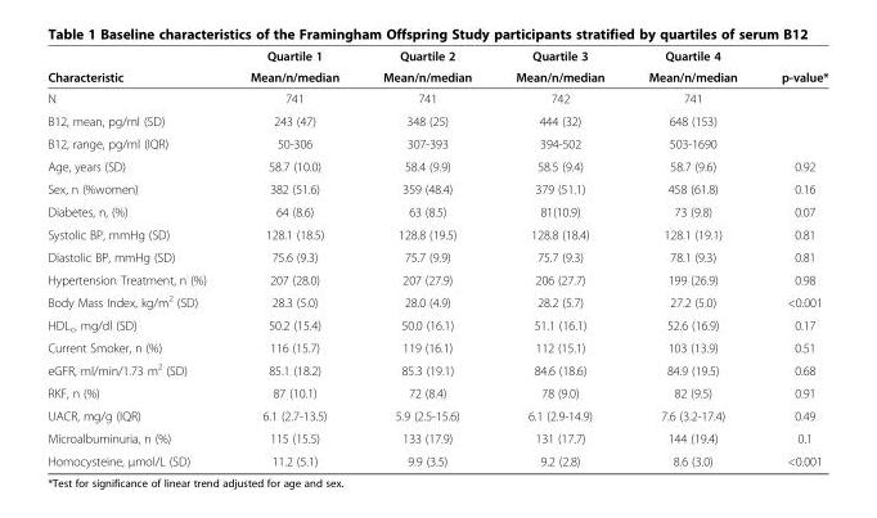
<table><thead><tr><td rowspan="2">Characteristic</td><td rowspan="2">Quartile 1 Mean/n/median</td><td rowspan="2">Quartile 2 Mean/n/median</td><td rowspan="2">Quartile 3 Mean/n/median</td><td rowspan="2">Quartile 4 Mean/n/median</td><td rowspan="2">p-value*</td></tr><tr></tr></thead><tbody><tr><td>N</td><td>741</td><td>741</td><td>742</td><td>741</td><td></td></tr><tr><td>B12, mean, pg/ml (SD)</td><td>243 (47)</td><td>348 (25)</td><td>444 (32)</td><td>648 (153)</td><td></td></tr><tr><td>B12, range, pg/ml (IQR)</td><td>50-306</td><td>307-393</td><td>394-502</td><td>503-1690</td><td></td></tr><tr><td>Age, years (SD)</td><td>58.7 (10.0)</td><td>58.4 (9.9)</td><td>58.5 (9.4)</td><td>58.7 (9.6)</td><td>0.92</td></tr><tr><td>Sex, n (%women)</td><td>382 (51.6)</td><td>359 (48.4)</td><td>379 (51.1)</td><td>458 (61.8)</td><td>0.16</td></tr><tr><td>Diabetes, n, (%)</td><td>64 (8.6)</td><td>63 (8.5)</td><td>81(10.9)</td><td>73 (9.8)</td><td>0.07</td></tr><tr><td>Systolic BP, mmHg (SD)</td><td>128.1 (18.5)</td><td>128.8 (19.5)</td><td>128.8 (18.4)</td><td>128.1 (19.1)</td><td>0.81</td></tr><tr><td>Diastolic BP, mmHg (SD)</td><td>75.6 (9.3)</td><td>75.7 (9.9)</td><td>75.7 (9.3)</td><td>78.1 (9.3)</td><td>0.81</td></tr><tr><td>Hypertension Treatment, n (%)</td><td>207 (28.0)</td><td>207 (27.9)</td><td>206 (27.7)</td><td>199 (26.9)</td><td>0.98</td></tr><tr><td>Body Mass Index, kg/m<sup>2</sup> (SD)</td><td>28.3 (5.0)</td><td>28.0 (4.9)</td><td>28.2 (5.7)</td><td>27.2 (5.0)</td><td>&lt;0.001</td></tr><tr><td>HDL<sub>c</sub>, mg/dl (SD)</td><td>50.2 (15.4)</td><td>50.0 (16.1)</td><td>51.1 (16.1)</td><td>52.6 (16.9)</td><td>0.17</td></tr><tr><td>Current Smoker, n (%)</td><td>116 (15.7)</td><td>119 (16.1)</td><td>112 (15.1)</td><td>103 (13.9)</td><td>0.51</td></tr><tr><td>eGFR, ml/min/1.73 m<sup>2</sup> (SD)</td><td>85.1 (18.2)</td><td>85.3 (19.1)</td><td>84.6 (18.6)</td><td>84.9 (19.5)</td><td>0.68</td></tr><tr><td>RKF, n (%)</td><td>87 (10.1)</td><td>72 (8.4)</td><td>78 (9.0)</td><td>82 (9.5)</td><td>0.91</td></tr><tr><td>UACR, mg/g (IQR)</td><td>6.1 (2.7-13.5)</td><td>5.9 (2.5-15.6)</td><td>6.1 (2.9-14.9)</td><td>7.6 (3.2-17.4)</td><td>0.49</td></tr><tr><td>Microalbuminuria, n (%)</td><td>115 (15.5)</td><td>133 (17.9)</td><td>131 (17.7)</td><td>144 (19.4)</td><td>0.1</td></tr><tr><td>Homocysteine, μmol/L (SD)</td><td>11.2 (5.1)</td><td>9.9 (3.5)</td><td>9.2 (2.8)</td><td>8.6 (3.0)</td><td>&lt;0.001</td></tr></tbody></table>